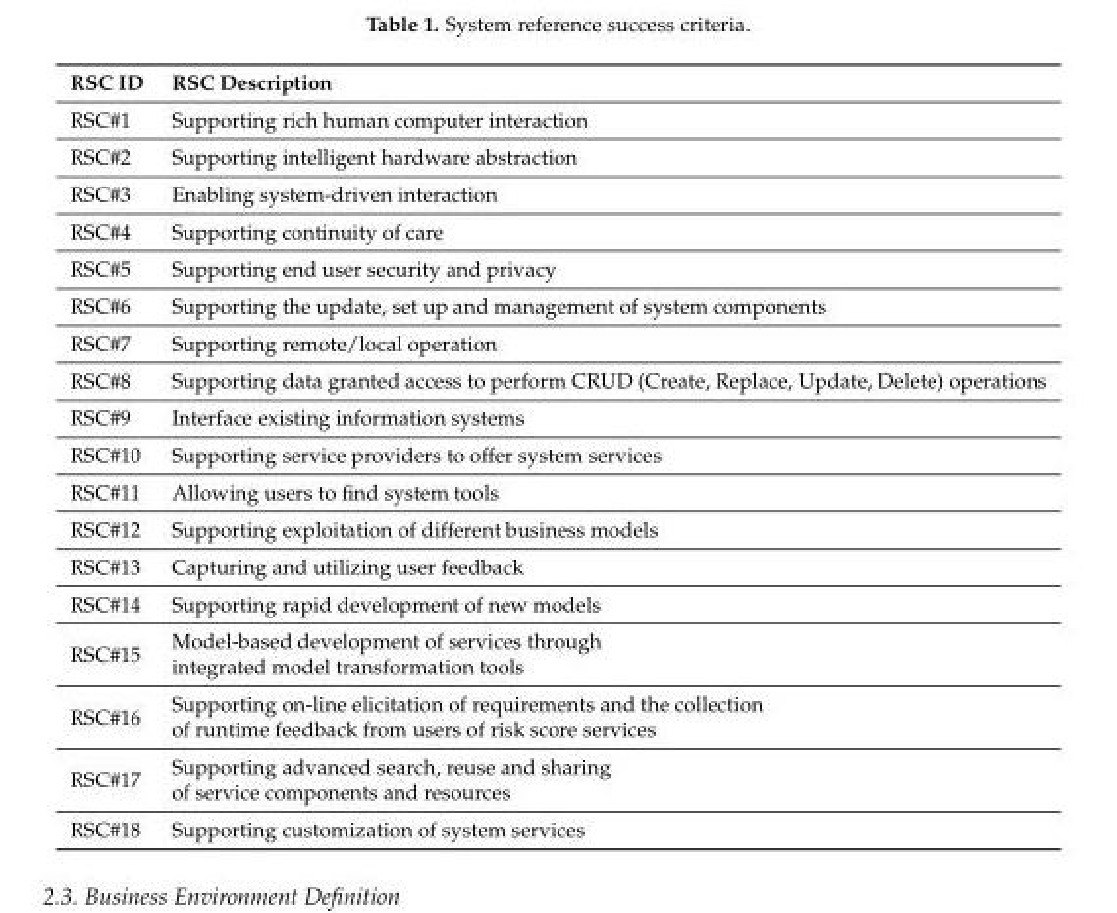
<table><thead><tr><td>RSC ID</td><td>RSC Description</td></tr></thead><tbody><tr><td>RSC#1</td><td>Supporting rich human computer interaction</td></tr><tr><td>RSC#2</td><td>Supporting intelligent hardware abstraction</td></tr><tr><td>RSC#3</td><td>Enabling system-driven interaction</td></tr><tr><td>RSC#4</td><td>Supporting continuity of care</td></tr><tr><td>RSC#5</td><td>Supporting end user security and privacy</td></tr><tr><td>RSC#6</td><td>Supporting the update, set up and management of system components</td></tr><tr><td>RSC#7</td><td>Supporting remote/local operation</td></tr><tr><td>RSC#8</td><td>Supporting data granted access to perform CRUD (Create, Replace, Update, Delete) operations</td></tr><tr><td>RSC#9</td><td>Interface existing information systems</td></tr><tr><td>RSC#10</td><td>Supporting service providers to offer system services</td></tr><tr><td>RSC#11</td><td>Allowing users to find system tools</td></tr><tr><td>RSC#12</td><td>Supporting exploitation of different business models</td></tr><tr><td>RSC#13</td><td>Capturing and utilizing user feedback</td></tr><tr><td>RSC#14</td><td>Supporting rapid development of new models</td></tr><tr><td>RSC#15</td><td>Model-based development of services through integrated model transformation tools</td></tr><tr><td>RSC#16</td><td>Supporting on-line elicitation of requirements and the collection of runtime feedback from users of risk score services</td></tr><tr><td>RSC#17</td><td>Supporting advanced search, reuse and sharing of service components and resources</td></tr><tr><td>RSC#18</td><td>Supporting customization of system services</td></tr></tbody></table>